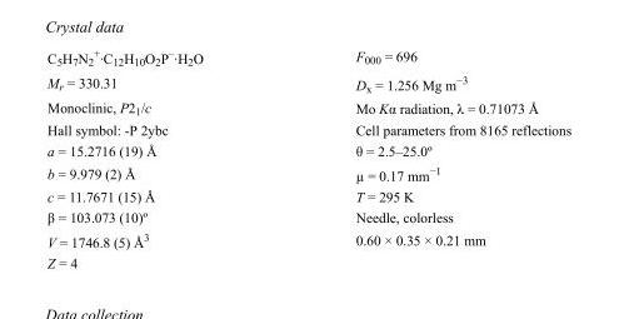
<table><tbody><tr><td>C<sub>5</sub>H<sub>7</sub>N<sub>2</sub> <sup>+</sup>·C<sub>12</sub>H<sub>10</sub>O<sub>2</sub>P<sup>–</sup>·H<sub>2</sub>O</td><td>F000 = 696</td></tr><tr><td>M<sub>r</sub> = 330.31</td><td>D<sub>x</sub> = 1.256 Mg m<sup>−3</sup></td></tr><tr><td>Monoclinic, P2<sub>1</sub>/c</td><td>Mo Kα radiation, λ = 0.71073 Å</td></tr><tr><td>Hall symbol: -P 2ybc</td><td>Cell parameters from 8165 reflections</td></tr><tr><td>a = 15.2716 (19) Å</td><td>θ = 2.5–25.0º</td></tr><tr><td>b = 9.979 (2) Å</td><td>µ = 0.17 mm<sup>−1</sup></td></tr><tr><td>c = 11.7671 (15) Å</td><td>T = 295 K</td></tr><tr><td>β = 103.073 (10)º</td><td>Needle, colorless</td></tr><tr><td>V = 1746.8 (5) Å<sup>3</sup></td><td>0.60 × 0.35 × 0.21 mm</td></tr><tr><td>Z = 4</td><td></td></tr></tbody></table>